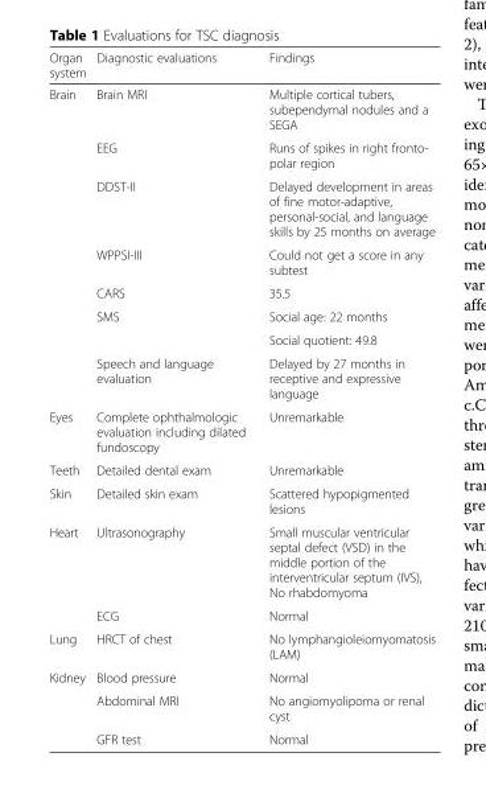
<table><thead><tr><td>Organ system</td><td>Diagnostic evaluations</td><td>Findings</td></tr></thead><tbody><tr><td rowspan="8">Brain</td><td>Brain MRI</td><td>Multiple cortical tubers, subependymal nodules and a SEGA</td></tr><tr><td>EEG</td><td>Runs of spikes in right fronto- polar region</td></tr><tr><td>DDST-II</td><td>Delayed development in areas of fine motor-adaptive, personal-social, and language skills by 25 months on average</td></tr><tr><td>WPPSI-III</td><td>Could not get a score in any subtest</td></tr><tr><td>CARS</td><td>35.5</td></tr><tr><td rowspan="2">SMS</td><td>Social age: 22 months</td></tr><tr><td>Social quotient: 49.8</td></tr><tr><td>Speech and language evaluation</td><td>Delayed by 27 months in receptive and expressive language</td></tr><tr><td>Eyes</td><td>Complete ophthalmologic evaluation including dilated fundoscopy</td><td>Unremarkable</td></tr><tr><td>Teeth</td><td>Detailed dental exam</td><td>Unremarkable</td></tr><tr><td>Skin</td><td>Detailed skin exam</td><td>Scattered hypopigmented lesions</td></tr><tr><td rowspan="2">Heart</td><td>Ultrasonography</td><td>Small muscular ventricular septal defect (VSD) in the middle portion of the interventricular septum (IVS), No rhabdomyoma</td></tr><tr><td>ECG</td><td>Normal</td></tr><tr><td>Lung</td><td>HRCT of chest</td><td>No lymphangioleiomyomatosis (LAM)</td></tr><tr><td rowspan="3">Kidney</td><td>Blood pressure</td><td>Normal</td></tr><tr><td>Abdominal MRI</td><td>No angiomyolipoma or renal cyst</td></tr><tr><td>GFR test</td><td>Normal</td></tr></tbody></table>